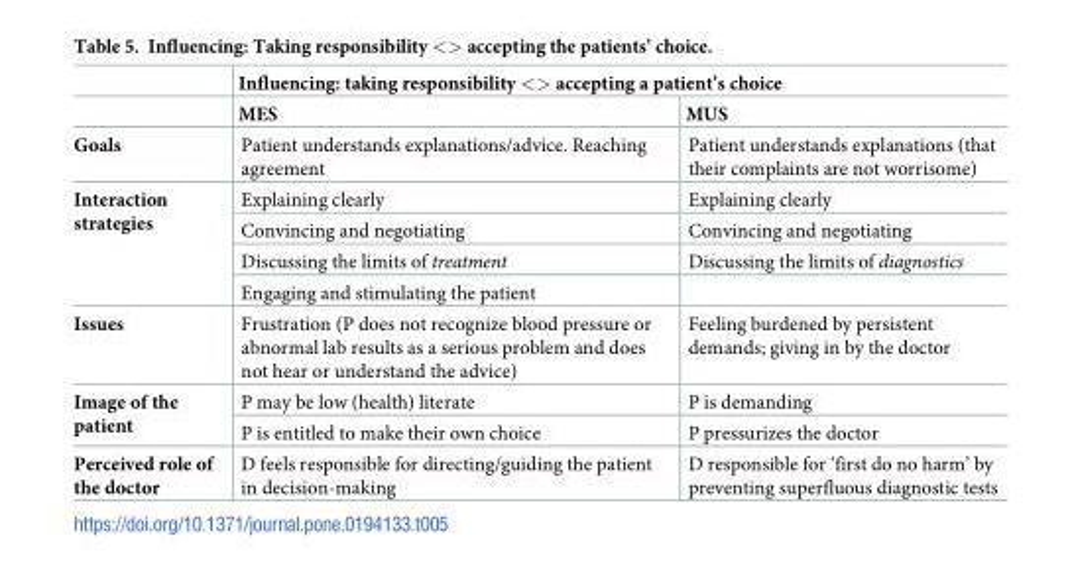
<table><thead><tr><td rowspan="2"></td><td colspan="2">Influencing: taking responsibility &lt;&gt; accepting a patient’s choice</td></tr><tr><td>MES</td><td>MUS</td></tr></thead><tbody><tr><td>Goals</td><td>Patient understands explanations/advice. Reaching agreement</td><td>Patient understands explanations (that their complaints are not worrisome)</td></tr><tr><td rowspan="4">Interaction strategies</td><td>Explaining clearly</td><td>Explaining clearly</td></tr><tr><td>Convincing and negotiating</td><td>Convincing and negotiating</td></tr><tr><td>Discussing the limits of treatment</td><td>Discussing the limits of diagnostics</td></tr><tr><td>Engaging and stimulating the patient</td><td></td></tr><tr><td>Issues</td><td>Frustration (P does not recognize blood pressure or abnormal lab results as a serious problem and does not hear or understand the advice)</td><td>Feeling burdened by persistent demands; giving in by the doctor</td></tr><tr><td rowspan="2">Image of the patient</td><td>P may be low (health) literate</td><td>P is demanding</td></tr><tr><td>P is entitled to make their own choice</td><td>P pressurizes the doctor</td></tr><tr><td>Perceived role of the doctor</td><td>D feels responsible for directing/guiding the patient in decision-making</td><td>D responsible for ‘first do no harm’ by preventing superfluous diagnostic tests</td></tr></tbody></table>